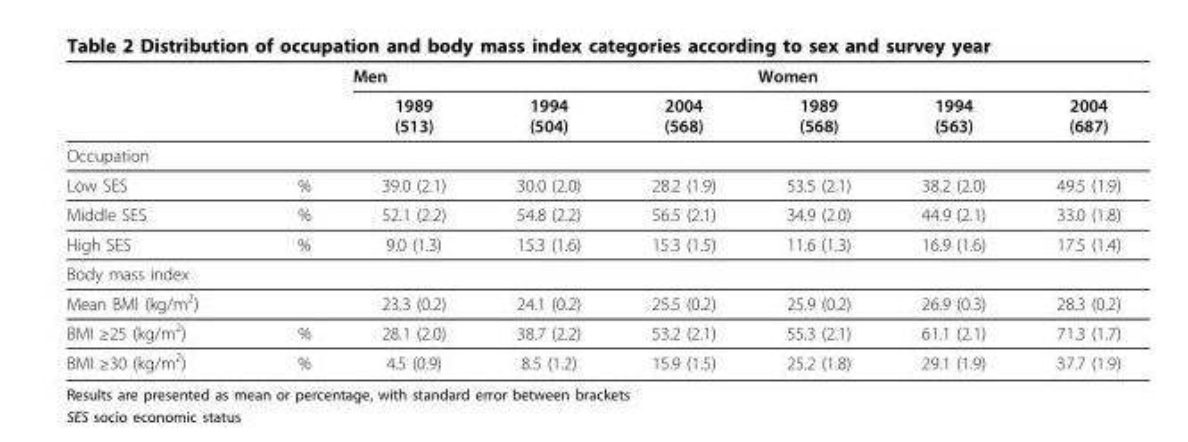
<table><thead><tr><td rowspan="2"></td><td rowspan="2"></td><td colspan="3">Men</td><td colspan="3">Women</td></tr><tr><td>1989 (513)</td><td>1994 (504)</td><td>2004 (568)</td><td>1989 (568)</td><td>1994 (563)</td><td>2004 (687)</td></tr></thead><tbody><tr><td colspan="8">Occupation</td></tr><tr><td>Low SES</td><td>%</td><td>39.0 (2.1)</td><td>30.0 (2.0)</td><td>28.2 (1.9)</td><td>53.5 (2.1)</td><td>38.2 (2.0)</td><td>49.5 (1.9)</td></tr><tr><td>Middle SES</td><td>%</td><td>52.1 (2.2)</td><td>54.8 (2.2)</td><td>56.5 (2.1)</td><td>34.9 (2.0)</td><td>44.9 (2.1)</td><td>33.0 (1.8)</td></tr><tr><td>High SES</td><td>%</td><td>9.0 (1.3)</td><td>15.3 (1.6)</td><td>15.3 (1.5)</td><td>11.6 (1.3)</td><td>16.9 (1.6)</td><td>17.5 (1.4)</td></tr><tr><td colspan="8">Body mass index</td></tr><tr><td>Mean BMI (kg/m<sup>2</sup>)</td><td></td><td>23.3 (0.2)</td><td>24.1 (0.2)</td><td>25.5 (0.2)</td><td>25.9 (0.2)</td><td>26.9 (0.3)</td><td>28.3 (0.2)</td></tr><tr><td>BMI ≥25 (kg/m<sup>2</sup>)</td><td>%</td><td>28.1 (2.0)</td><td>38.7 (2.2)</td><td>53.2 (2.1)</td><td>55.3 (2.1)</td><td>61.1 (2.1)</td><td>71.3 (1.7)</td></tr><tr><td>BMI ≥30 (kg/m<sup>2</sup>)</td><td>%</td><td>4.5 (0.9)</td><td>8.5 (1.2)</td><td>15.9 (1.5)</td><td>25.2 (1.8)</td><td>29.1 (1.9)</td><td>37.7 (1.9)</td></tr></tbody></table>